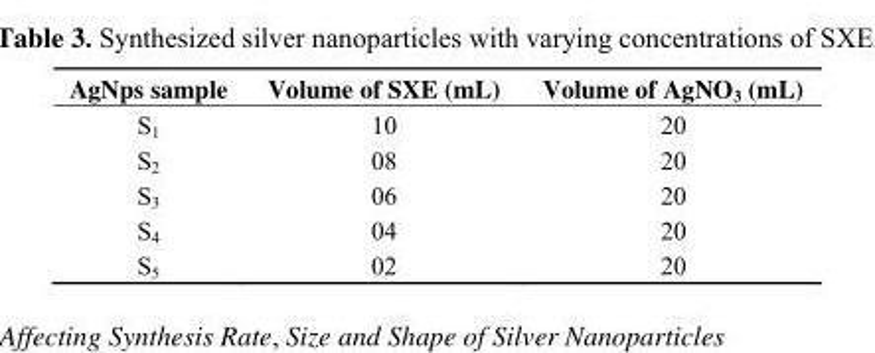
<table><thead><tr><td>AgNps sample</td><td>Volume of SXE (mL)</td><td>Volume of AgNO<sub>3</sub> (mL)</td></tr></thead><tbody><tr><td>S<sub>1</sub></td><td>10</td><td>20</td></tr><tr><td>S<sub>2</sub></td><td>08</td><td>20</td></tr><tr><td>S<sub>3</sub></td><td>06</td><td>20</td></tr><tr><td>S<sub>4</sub></td><td>04</td><td>20</td></tr><tr><td>S<sub>5</sub></td><td>02</td><td>20</td></tr></tbody></table>